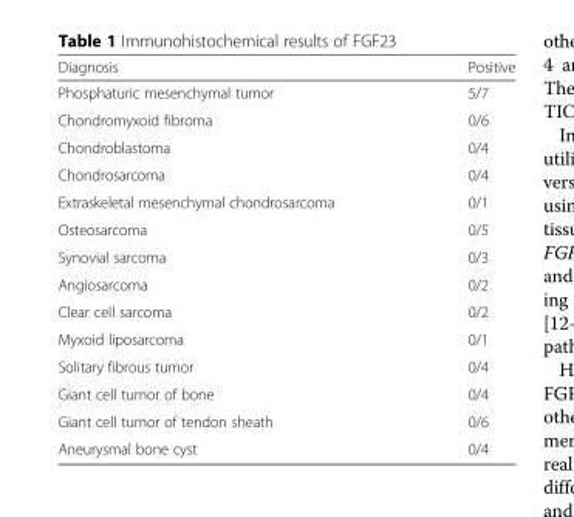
<table><thead><tr><td>Diagnosis</td><td>Positive</td></tr></thead><tbody><tr><td>Phosphaturic mesenchymal tumor</td><td>5/7</td></tr><tr><td>Chondromyxoid fibroma</td><td>0/6</td></tr><tr><td>Chondroblastoma</td><td>0/4</td></tr><tr><td>Chondrosarcoma</td><td>0/4</td></tr><tr><td>Extraskeletal mesenchymal chondrosarcoma</td><td>0/1</td></tr><tr><td>Osteosarcoma</td><td>0/5</td></tr><tr><td>Synovial sarcoma</td><td>0/3</td></tr><tr><td>Angiosarcoma</td><td>0/2</td></tr><tr><td>Clear cell sarcoma</td><td>0/2</td></tr><tr><td>Myxoid liposarcoma</td><td>0/1</td></tr><tr><td>Solitary fibrous tumor</td><td>0/4</td></tr><tr><td>Giant cell tumor of bone</td><td>0/4</td></tr><tr><td>Giant cell tumor of tendon sheath</td><td>0/6</td></tr><tr><td>Aneurysmal bone cyst</td><td>0/4</td></tr></tbody></table>